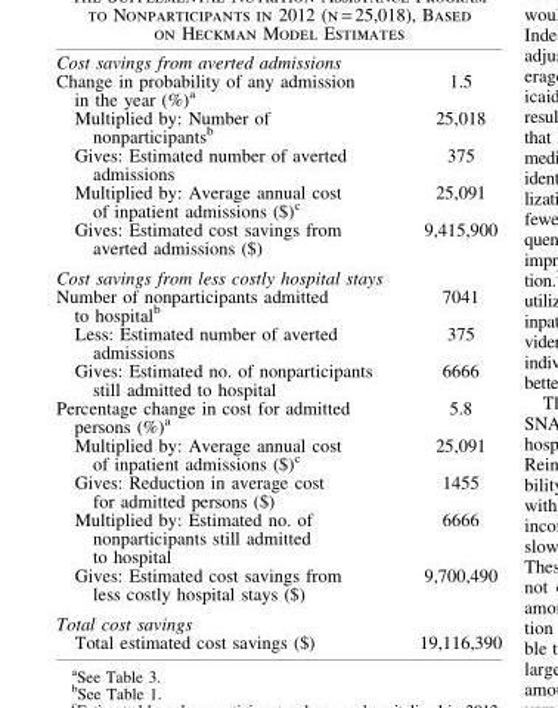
<table><tbody><tr><td colspan="2">Cost savings from averted admissions</td></tr><tr><td>Change in probability of any admission in the year (%)<sup>a</sup></td><td>1.5</td></tr><tr><td>Multiplied by: Number of nonparticipants<sup>b</sup></td><td>25,018</td></tr><tr><td>Gives: Estimated number of averted admissions</td><td>375</td></tr><tr><td>Multiplied by: Average annual cost of inpatient admissions ($)<sup>c</sup></td><td>25,091</td></tr><tr><td>Gives: Estimated cost savings from averted admissions ($)</td><td>9,415,900</td></tr><tr><td colspan="2">Cost savings from less costly hospital stays</td></tr><tr><td>Number of nonparticipants admitted to hospital<sup>b</sup></td><td>7041</td></tr><tr><td>Less: Estimated number of averted admissions</td><td>375</td></tr><tr><td>Gives: Estimated no. of nonparticipants still admitted to hospital</td><td>6666</td></tr><tr><td>Percentage change in cost for admitted persons (%)<sup>a</sup></td><td>5.8</td></tr><tr><td>Multiplied by: Average annual cost of inpatient admissions ($)<sup>c</sup></td><td>25,091</td></tr><tr><td>Gives: Reduction in average cost for admitted persons ($)</td><td>1455</td></tr><tr><td>Multiplied by: Estimated no. of nonparticipants still admitted to hospital</td><td>6666</td></tr><tr><td>Gives: Estimated cost savings from less costly hospital stays ($)</td><td>9,700,490</td></tr><tr><td colspan="2">Total cost savings</td></tr><tr><td>Total estimated cost savings ($)</td><td>19,116,390</td></tr></tbody></table>